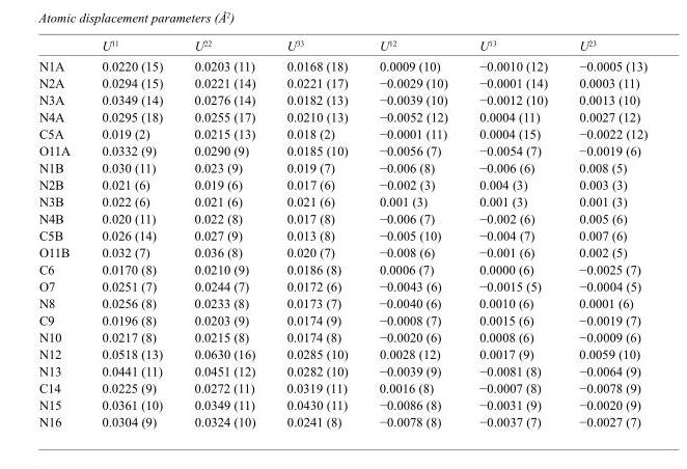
<table><thead><tr><td></td><td>U<sup>11</sup></td><td>U<sup>22</sup></td><td>U<sup>33</sup></td><td>U<sup>12</sup></td><td>U<sup>13</sup></td><td>U<sup>23</sup></td></tr></thead><tbody><tr><td>N1A</td><td>0.0220 (15)</td><td>0.0203 (11)</td><td>0.0168 (18)</td><td>0.0009 (10)</td><td>−0.0010 (12)</td><td>−0.0005 (13)</td></tr><tr><td>N2A</td><td>0.0294 (15)</td><td>0.0221 (14)</td><td>0.0221 (17)</td><td>−0.0029 (10)</td><td>−0.0001 (14)</td><td>0.0003 (11)</td></tr><tr><td>N3A</td><td>0.0349 (14)</td><td>0.0276 (14)</td><td>0.0182 (13)</td><td>−0.0039 (10)</td><td>−0.0012 (10)</td><td>0.0013 (10)</td></tr><tr><td>N4A</td><td>0.0295 (18)</td><td>0.0255 (17)</td><td>0.0210 (13)</td><td>−0.0052 (12)</td><td>0.0004 (11)</td><td>0.0027 (12)</td></tr><tr><td>C5A</td><td>0.019 (2)</td><td>0.0215 (13)</td><td>0.018 (2)</td><td>−0.0001 (11)</td><td>0.0004 (15)</td><td>−0.0022 (12)</td></tr><tr><td>O11A</td><td>0.0332 (9)</td><td>0.0290 (9)</td><td>0.0185 (10)</td><td>−0.0056 (7)</td><td>−0.0054 (7)</td><td>−0.0019 (6)</td></tr><tr><td>N1B</td><td>0.030 (11)</td><td>0.023 (9)</td><td>0.019 (7)</td><td>−0.006 (8)</td><td>−0.006 (6)</td><td>0.008 (5)</td></tr><tr><td>N2B</td><td>0.021 (6)</td><td>0.019 (6)</td><td>0.017 (6)</td><td>−0.002 (3)</td><td>0.004 (3)</td><td>0.003 (3)</td></tr><tr><td>N3B</td><td>0.022 (6)</td><td>0.021 (6)</td><td>0.021 (6)</td><td>0.001 (3)</td><td>0.001 (3)</td><td>0.001 (3)</td></tr><tr><td>N4B</td><td>0.020 (11)</td><td>0.022 (8)</td><td>0.017 (8)</td><td>−0.006 (7)</td><td>−0.002 (6)</td><td>0.005 (6)</td></tr><tr><td>C5B</td><td>0.026 (14)</td><td>0.027 (9)</td><td>0.013 (8)</td><td>−0.005 (10)</td><td>−0.004 (7)</td><td>0.007 (6)</td></tr><tr><td>O11B</td><td>0.032 (7)</td><td>0.036 (8)</td><td>0.020 (7)</td><td>−0.008 (6)</td><td>−0.001 (6)</td><td>0.002 (5)</td></tr><tr><td>C6</td><td>0.0170 (8)</td><td>0.0210 (9)</td><td>0.0186 (8)</td><td>0.0006 (7)</td><td>0.0000 (6)</td><td>−0.0025 (7)</td></tr><tr><td>O7</td><td>0.0251 (7)</td><td>0.0244 (7)</td><td>0.0172 (6)</td><td>−0.0043 (6)</td><td>−0.0015 (5)</td><td>−0.0004 (5)</td></tr><tr><td>N8</td><td>0.0256 (8)</td><td>0.0233 (8)</td><td>0.0173 (7)</td><td>−0.0040 (6)</td><td>0.0010 (6)</td><td>0.0001 (6)</td></tr><tr><td>C9</td><td>0.0196 (8)</td><td>0.0203 (9)</td><td>0.0174 (9)</td><td>−0.0008 (7)</td><td>0.0015 (6)</td><td>−0.0019 (7)</td></tr><tr><td>N10</td><td>0.0217 (8)</td><td>0.0215 (8)</td><td>0.0174 (8)</td><td>−0.0020 (6)</td><td>0.0008 (6)</td><td>−0.0009 (6)</td></tr><tr><td>N12</td><td>0.0518 (13)</td><td>0.0630 (16)</td><td>0.0285 (10)</td><td>0.0028 (12)</td><td>0.0017 (9)</td><td>0.0059 (10)</td></tr><tr><td>N13</td><td>0.0441 (11)</td><td>0.0451 (12)</td><td>0.0282 (10)</td><td>−0.0039 (9)</td><td>−0.0081 (8)</td><td>−0.0064 (9)</td></tr><tr><td>C14</td><td>0.0225 (9)</td><td>0.0272 (11)</td><td>0.0319 (11)</td><td>0.0016 (8)</td><td>−0.0007 (8)</td><td>−0.0078 (9)</td></tr><tr><td>N15</td><td>0.0361 (10)</td><td>0.0349 (11)</td><td>0.0430 (11)</td><td>−0.0086 (8)</td><td>−0.0031 (9)</td><td>−0.0020 (9)</td></tr><tr><td>N16</td><td>0.0304 (9)</td><td>0.0324 (10)</td><td>0.0241 (8)</td><td>−0.0078 (8)</td><td>−0.0037 (7)</td><td>−0.0027 (7)</td></tr></tbody></table>